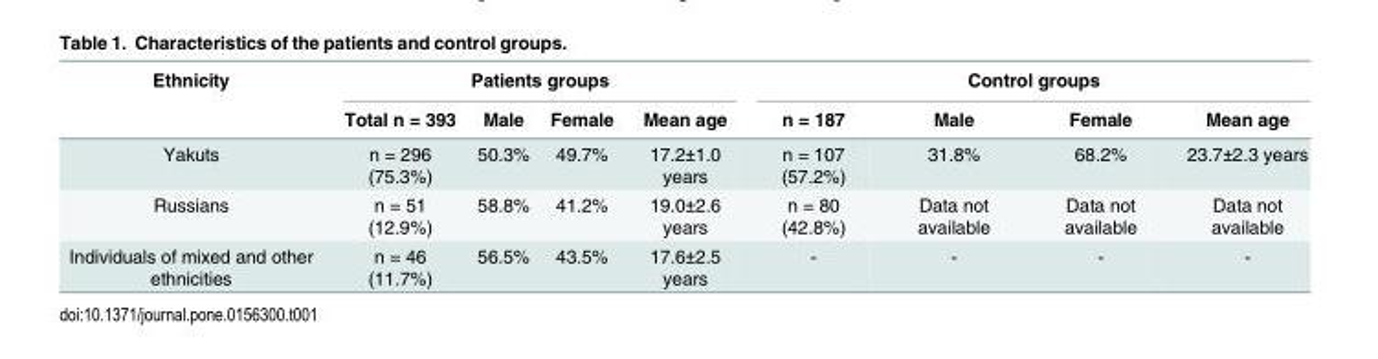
<table><thead><tr><td rowspan="2">Ethnicity</td><td colspan="4">Patients groups</td><td colspan="4">Control groups</td></tr><tr><td>Total n = 393</td><td>Male</td><td>Female</td><td>Mean age</td><td>n = 187</td><td>Male</td><td>Female</td><td>Mean age</td></tr></thead><tbody><tr><td>Yakuts</td><td>n = 296 (75.3%)</td><td>50.3%</td><td>49.7%</td><td>17.2±1.0 years</td><td>n = 107 (57.2%)</td><td>31.8%</td><td>68.2%</td><td>23.7±2.3 years</td></tr><tr><td>Russians</td><td>n = 51 (12.9%)</td><td>58.8%</td><td>41.2%</td><td>19.0±2.6 years</td><td>n = 80 (42.8%)</td><td>Data not available</td><td>Data not available</td><td>Data not available</td></tr><tr><td>Individuals of mixed and other ethnicities</td><td>n = 46 (11.7%)</td><td>56.5%</td><td>43.5%</td><td>17.6±2.5 years</td><td>-</td><td>-</td><td>-</td><td>-</td></tr></tbody></table>